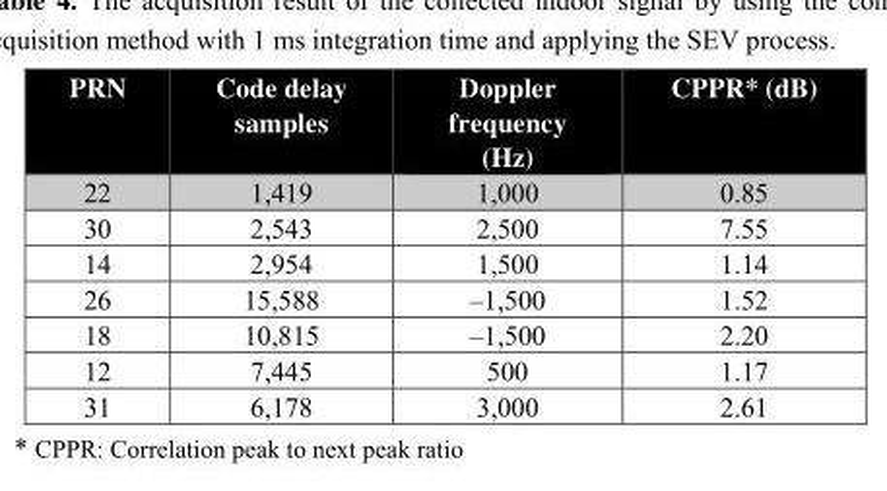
<table><thead><tr><td>PRN</td><td>Code delay samples</td><td>Doppler frequency (Hz)</td><td>CPPR* (dB)</td></tr></thead><tbody><tr><td>22</td><td>1,419</td><td>1,000</td><td>0.85</td></tr><tr><td>30</td><td>2,543</td><td>2,500</td><td>7.55</td></tr><tr><td>14</td><td>2,954</td><td>1,500</td><td>1.14</td></tr><tr><td>26</td><td>15,588</td><td>–1,500</td><td>1.52</td></tr><tr><td>18</td><td>10,815</td><td>–1,500</td><td>2.20</td></tr><tr><td>12</td><td>7,445</td><td>500</td><td>1.17</td></tr><tr><td>31</td><td>6,178</td><td>3,000</td><td>2.61</td></tr></tbody></table>